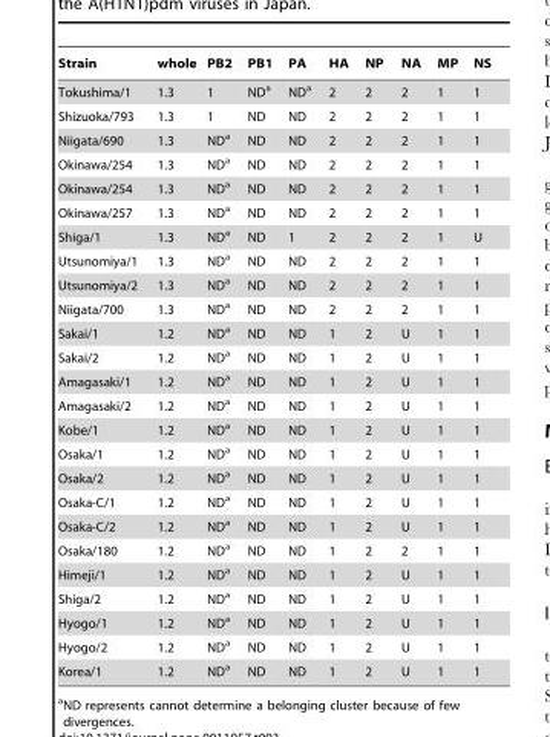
<table><thead><tr><td>Strain</td><td>whole</td><td>PB2</td><td>PB1</td><td>PA</td><td>HA</td><td>NP</td><td>NA</td><td>MP</td><td>NS</td></tr></thead><tbody><tr><td>Tokushima/1</td><td>1.3</td><td>1</td><td>ND<sup>a</sup></td><td>ND<sup>a</sup></td><td>2</td><td>2</td><td>2</td><td>1</td><td>1</td></tr><tr><td>Shizuoka/793</td><td>1.3</td><td>1</td><td>ND</td><td>ND</td><td>2</td><td>2</td><td>2</td><td>1</td><td>1</td></tr><tr><td>Niigata/690</td><td>1.3</td><td>ND<sup>a</sup></td><td>ND</td><td>ND</td><td>2</td><td>2</td><td>2</td><td>1</td><td>1</td></tr><tr><td>Okinawa/254</td><td>1.3</td><td>ND<sup>a</sup></td><td>ND</td><td>ND</td><td>2</td><td>2</td><td>2</td><td>1</td><td>1</td></tr><tr><td>Okinawa/254</td><td>1.3</td><td>ND<sup>a</sup></td><td>ND</td><td>ND</td><td>2</td><td>2</td><td>2</td><td>1</td><td>1</td></tr><tr><td>Okinawa/257</td><td>1.3</td><td>ND<sup>a</sup></td><td>ND</td><td>ND</td><td>2</td><td>2</td><td>2</td><td>1</td><td>1</td></tr><tr><td>Shiga/1</td><td>1.3</td><td>ND<sup>a</sup></td><td>ND</td><td>1</td><td>2</td><td>2</td><td>2</td><td>1</td><td>U</td></tr><tr><td>Utsunomiya/1</td><td>1.3</td><td>ND<sup>a</sup></td><td>ND</td><td>ND</td><td>2</td><td>2</td><td>2</td><td>1</td><td>1</td></tr><tr><td>Utsunomiya/2</td><td>1.3</td><td>ND<sup>a</sup></td><td>ND</td><td>ND</td><td>2</td><td>2</td><td>2</td><td>1</td><td>1</td></tr><tr><td>Niigata/700</td><td>1.3</td><td>ND<sup>a</sup></td><td>ND</td><td>ND</td><td>2</td><td>2</td><td>2</td><td>1</td><td>1</td></tr><tr><td>Sakai/1</td><td>1.2</td><td>ND<sup>a</sup></td><td>ND</td><td>ND</td><td>1</td><td>2</td><td>U</td><td>1</td><td>1</td></tr><tr><td>Sakai/2</td><td>1.2</td><td>ND<sup>a</sup></td><td>ND</td><td>ND</td><td>1</td><td>2</td><td>U</td><td>1</td><td>1</td></tr><tr><td>Amagasaki/1</td><td>1.2</td><td>ND<sup>a</sup></td><td>ND</td><td>ND</td><td>1</td><td>2</td><td>U</td><td>1</td><td>1</td></tr><tr><td>Amagasaki/2</td><td>1.2</td><td>ND<sup>a</sup></td><td>ND</td><td>ND</td><td>1</td><td>2</td><td>U</td><td>1</td><td>1</td></tr><tr><td>Kobe/1</td><td>1.2</td><td>ND<sup>a</sup></td><td>ND</td><td>ND</td><td>1</td><td>2</td><td>U</td><td>1</td><td>1</td></tr><tr><td>Osaka/1</td><td>1.2</td><td>ND<sup>a</sup></td><td>ND</td><td>ND</td><td>1</td><td>2</td><td>U</td><td>1</td><td>1</td></tr><tr><td>Osaka/2</td><td>1.2</td><td>ND<sup>a</sup></td><td>ND</td><td>ND</td><td>1</td><td>2</td><td>U</td><td>1</td><td>1</td></tr><tr><td>Osaka-C/1</td><td>1.2</td><td>ND<sup>a</sup></td><td>ND</td><td>ND</td><td>1</td><td>2</td><td>U</td><td>1</td><td>1</td></tr><tr><td>Osaka-C/2</td><td>1.2</td><td>ND<sup>a</sup></td><td>ND</td><td>ND</td><td>1</td><td>2</td><td>U</td><td>1</td><td>1</td></tr><tr><td>Osaka/180</td><td>1.2</td><td>ND<sup>a</sup></td><td>ND</td><td>ND</td><td>1</td><td>2</td><td>2</td><td>1</td><td>1</td></tr><tr><td>Himeji/1</td><td>1.2</td><td>ND<sup>a</sup></td><td>ND</td><td>ND</td><td>1</td><td>2</td><td>U</td><td>1</td><td>1</td></tr><tr><td>Shiga/2</td><td>1.2</td><td>ND<sup>a</sup></td><td>ND</td><td>ND</td><td>1</td><td>2</td><td>U</td><td>1</td><td>1</td></tr><tr><td>Hyogo/1</td><td>1.2</td><td>ND<sup>a</sup></td><td>ND</td><td>ND</td><td>1</td><td>2</td><td>U</td><td>1</td><td>1</td></tr><tr><td>Hyogo/2</td><td>1.2</td><td>ND<sup>a</sup></td><td>ND</td><td>ND</td><td>1</td><td>2</td><td>U</td><td>1</td><td>1</td></tr><tr><td>Korea/1</td><td>1.2</td><td>ND<sup>a</sup></td><td>ND</td><td>ND</td><td>1</td><td>2</td><td>U</td><td>1</td><td>1</td></tr></tbody></table>